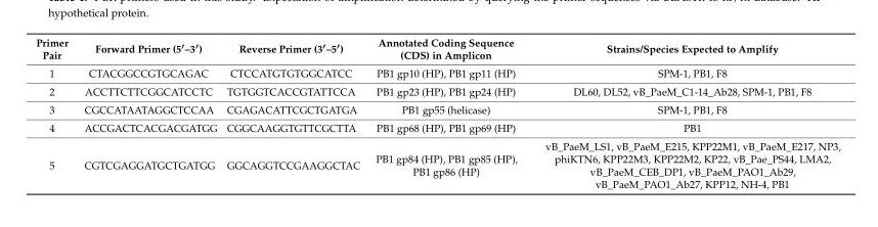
<table><thead><tr><td>Primer Pair</td><td>Forward Primer (5′–3′)</td><td>Reverse Primer (3′–5′)</td><td>Annotated Coding Sequence (CDS) in Amplicon</td><td>Strains/Species Expected to Amplify</td></tr></thead><tbody><tr><td>1</td><td>CTACGGCCGTGCAGAC</td><td>CTCCATGTGTGGCATCC</td><td>PB1 gp10 (HP), PB1 gp11 (HP)</td><td>SPM-1, PB1, F8</td></tr><tr><td>2</td><td>ACCTTCTTCGGCATCCTC</td><td>TGTGGTCACCGTATTCCA</td><td>PB1 gp23 (HP), PB1 gp24 (HP)</td><td>DL60, DL52, vB_PaeM_C1-14_Ab28, SPM-1, PB1, F8</td></tr><tr><td>3</td><td>CGCCATAATAGGCTCCAA</td><td>CGAGACATTCGCTGATGA</td><td>PB1 gp55 (helicase)</td><td>SPM-1, PB1, F8</td></tr><tr><td>4</td><td>ACCGACTCACGACGATGG</td><td>CGGCAAGGTGTTCGCTTA</td><td>PB1 gp68 (HP), PB1 gp69 (HP)</td><td>PB1</td></tr><tr><td>5</td><td>CGTCGAGGATGCTGATGG</td><td>GGCAGGTCCGAAGGCTAC</td><td>PB1 gp84 (HP), PB1 gp85 (HP), PB1 gp86 (HP)</td><td>vB_PaeM_LS1, vB_PaeM_E215, KPP22M1, vB_PaeM_E217, NP3, phiKTN6, KPP22M3, KPP22M2, KP22, vB_Pae_PS44, LMA2, vB_PaeM_CEB_DP1, vB_PaeM_PAO1_Ab29, vB_PaeM_PAO1_Ab27, KPP12, NH-4, PB1</td></tr></tbody></table>